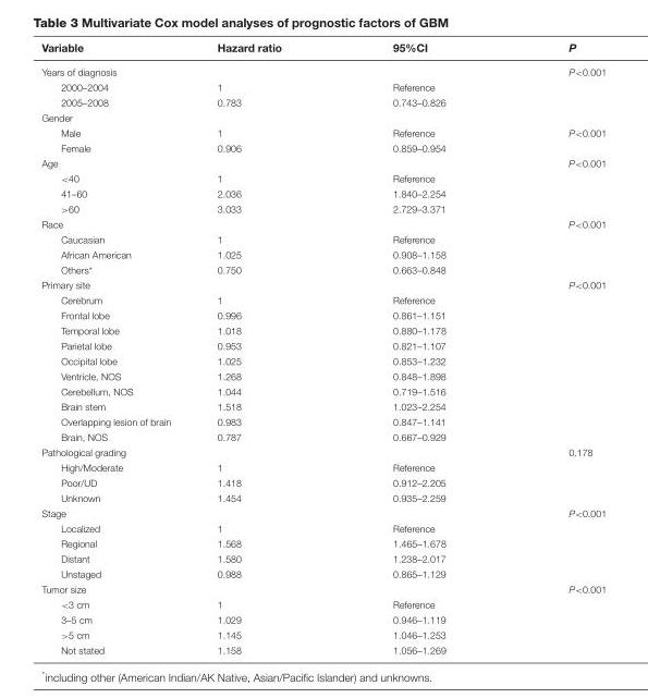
<table><thead><tr><td>Variable</td><td>Hazard ratio</td><td>95%CI</td><td>P</td></tr></thead><tbody><tr><td>Years of diagnosis</td><td></td><td></td><td>P&lt;0.001</td></tr><tr><td>2000–2004</td><td>1</td><td>Reference</td><td></td></tr><tr><td>2005–2008</td><td>0.783</td><td>0.743–0.826</td><td></td></tr><tr><td colspan="4">Gender</td></tr><tr><td>Male</td><td>1</td><td>Reference</td><td>P&lt;0.001</td></tr><tr><td>Female</td><td>0.906</td><td>0.859–0.954</td><td></td></tr><tr><td>Age</td><td></td><td></td><td>P&lt;0.001</td></tr><tr><td>&lt;40</td><td>1</td><td>Reference</td><td></td></tr><tr><td>41–60</td><td>2.036</td><td>1.840–2.254</td><td></td></tr><tr><td>&gt;60</td><td>3.033</td><td>2.729–3.371</td><td></td></tr><tr><td>Race</td><td></td><td></td><td>P&lt;0.001</td></tr><tr><td>Caucasian</td><td>1</td><td>Reference</td><td></td></tr><tr><td>African American</td><td>1.025</td><td>0.908–1.158</td><td></td></tr><tr><td>Others*</td><td>0.750</td><td>0.663–0.848</td><td></td></tr><tr><td>Primary site</td><td></td><td></td><td>P&lt;0.001</td></tr><tr><td>Cerebrum</td><td>1</td><td>Reference</td><td></td></tr><tr><td>Frontal lobe</td><td>0.996</td><td>0.861–1.151</td><td></td></tr><tr><td>Temporal lobe</td><td>1.018</td><td>0.880–1.178</td><td></td></tr><tr><td>Parietal lobe</td><td>0.953</td><td>0.821–1.107</td><td></td></tr><tr><td>Occipital lobe</td><td>1.025</td><td>0.853–1.232</td><td></td></tr><tr><td>Ventricle, NOS</td><td>1.268</td><td>0.848–1.898</td><td></td></tr><tr><td>Cerebellum, NOS</td><td>1.044</td><td>0.719–1.516</td><td></td></tr><tr><td>Brain stem</td><td>1.518</td><td>1.023–2.254</td><td></td></tr><tr><td>Overlapping lesion of brain</td><td>0.983</td><td>0.847–1.141</td><td></td></tr><tr><td>Brain, NOS</td><td>0.787</td><td>0.667–0.929</td><td></td></tr><tr><td>Pathological grading</td><td></td><td></td><td>0.178</td></tr><tr><td>High/Moderate</td><td>1</td><td>Reference</td><td></td></tr><tr><td>Poor/UD</td><td>1.418</td><td>0.912–2.205</td><td></td></tr><tr><td>Unknown</td><td>1.454</td><td>0.935–2.259</td><td></td></tr><tr><td>Stage</td><td></td><td></td><td>P&lt;0.001</td></tr><tr><td>Localized</td><td>1</td><td>Reference</td><td></td></tr><tr><td>Regional</td><td>1.568</td><td>1.465–1.678</td><td></td></tr><tr><td>Distant</td><td>1.580</td><td>1.238–2.017</td><td></td></tr><tr><td>Unstaged</td><td>0.988</td><td>0.865–1.129</td><td></td></tr><tr><td>Tumor size</td><td></td><td></td><td>P&lt;0.001</td></tr><tr><td>&lt;3 cm</td><td>1</td><td>Reference</td><td></td></tr><tr><td>3–5 cm</td><td>1.029</td><td>0.946–1.119</td><td></td></tr><tr><td>&gt;5 cm</td><td>1.145</td><td>1.046–1.253</td><td></td></tr><tr><td>Not stated</td><td>1.158</td><td>1.056–1.269</td><td></td></tr></tbody></table>